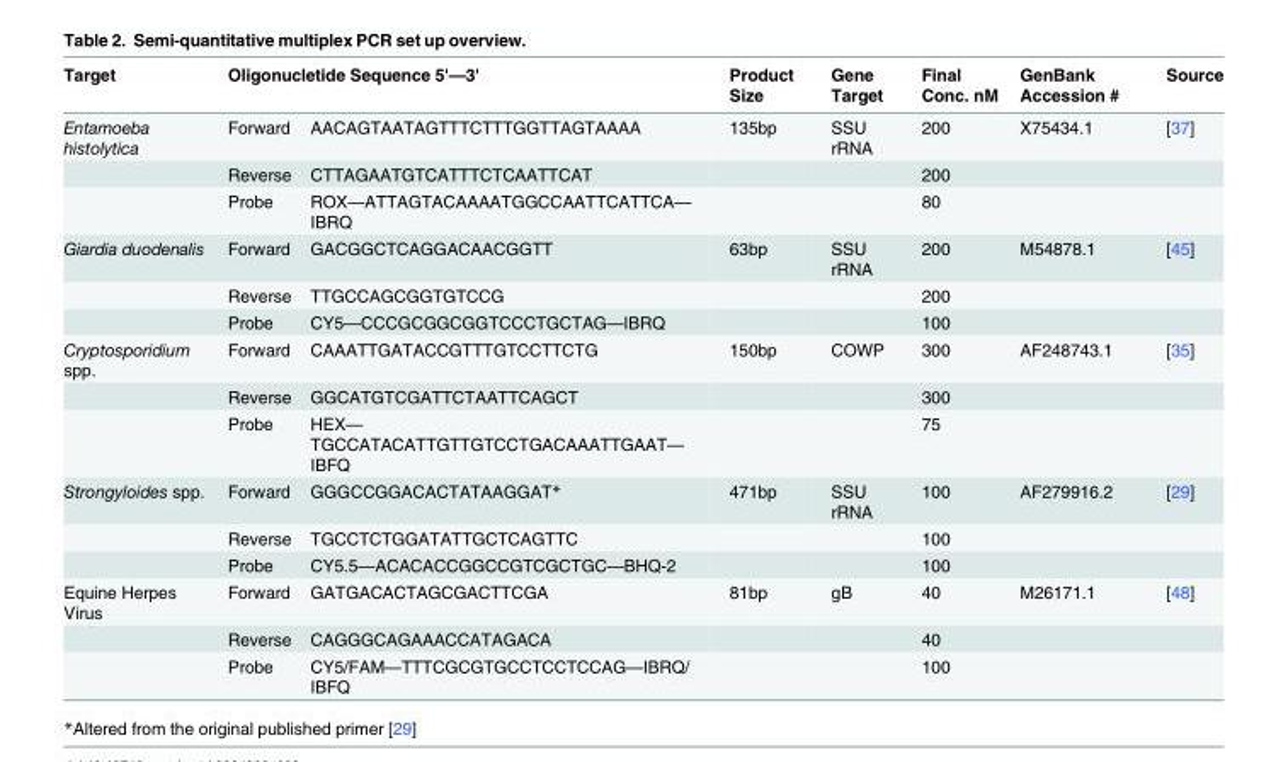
<table><thead><tr><td rowspan="2">Target Entamoeba histolytica</td><td colspan="2">Oligonucletide Sequence 5&#x27;—3&#x27;</td><td rowspan="2">Product Size 135bp</td><td rowspan="2">Gene Target SSU rRNA</td><td rowspan="2">Final Conc. nM 200</td><td rowspan="2">GenBank Accession # X75434.1</td><td rowspan="2">Source [37]</td></tr><tr><td>Forward</td><td>AACAGTAATAGTTTCTTTGGTTAGTAAAA</td></tr></thead><tbody><tr><td></td><td>Reverse</td><td>CTTAGAATGTCATTTCTCAATTCAT</td><td></td><td></td><td>200</td><td></td><td></td></tr><tr><td></td><td>Probe</td><td>ROX—ATTAGTACAAAATGGCCAATTCATTCA— IBRQ</td><td></td><td></td><td>80</td><td></td><td></td></tr><tr><td rowspan="3">Giardia duodenalis</td><td>Forward</td><td>GACGGCTCAGGACAACGGTT</td><td>63bp</td><td>SSU rRNA</td><td>200</td><td>M54878.1</td><td>[45]</td></tr><tr><td>Reverse</td><td>TTGCCAGCGGTGTCCG</td><td></td><td></td><td>200</td><td></td><td></td></tr><tr><td>Probe</td><td>CY5—CCCGCGGCGGTCCCTGCTAG—IBRQ</td><td></td><td></td><td>100</td><td></td><td></td></tr><tr><td rowspan="3">Cryptosporidium spp.</td><td>Forward</td><td>CAAATTGATACCGTTTGTCCTTCTG</td><td>150bp</td><td>COWP</td><td>300</td><td>AF248743.1</td><td>[35]</td></tr><tr><td>Reverse</td><td>GGCATGTCGATTCTAATTCAGCT</td><td></td><td></td><td>300</td><td></td><td></td></tr><tr><td>Probe</td><td>HEX— TGCCATACATTGTTGTCCTGACAAATTGAAT— IBFQ</td><td></td><td></td><td>75</td><td></td><td></td></tr><tr><td rowspan="3">Strongyloides spp.</td><td>Forward</td><td>GGGCCGGACACTATAAGGAT*</td><td>471bp</td><td>SSU rRNA</td><td>100</td><td>AF279916.2</td><td>[29]</td></tr><tr><td>Reverse</td><td>TGCCTCTGGATATTGCTCAGTTC</td><td></td><td></td><td>100</td><td></td><td></td></tr><tr><td>Probe</td><td>CY5.5—ACACACCGGCCGTCGCTGC—BHQ-2</td><td></td><td></td><td>100</td><td></td><td></td></tr><tr><td rowspan="3">Equine Herpes Virus</td><td>Forward</td><td>GATGACACTAGCGACTTCGA</td><td>81bp</td><td>gB</td><td>40</td><td>M26171.1</td><td>[48]</td></tr><tr><td>Reverse</td><td>CAGGGCAGAAACCATAGACA</td><td></td><td></td><td>40</td><td></td><td></td></tr><tr><td>Probe</td><td>CY5/FAM—TTTCGCGTGCCTCCTCCAG—IBRQ/ IBFQ</td><td></td><td></td><td>100</td><td></td><td></td></tr></tbody></table>